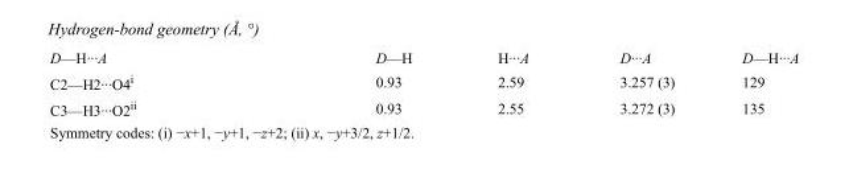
<table><tbody><tr><td>D—H···A</td><td>D—H</td><td>H···A</td><td>D···A</td><td>D—H···A</td></tr><tr><td>C2—H2···O4<sup>i</sup></td><td>0.93</td><td>2.59</td><td>3.257 (3)</td><td>129</td></tr><tr><td>C3—H3···O2<sup>ii</sup></td><td>0.93</td><td>2.55</td><td>3.272 (3)</td><td>135</td></tr></tbody></table>